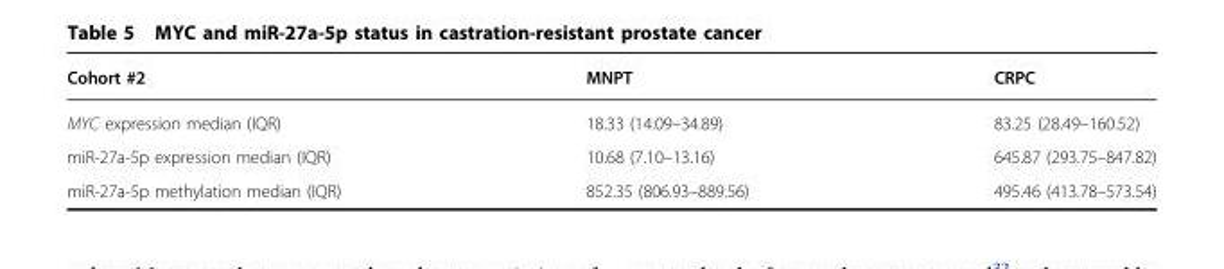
<table><thead><tr><td>Cohort #2</td><td>MNPT</td><td>CRPC</td></tr></thead><tbody><tr><td>MYC expression median (IQR)</td><td>18.33 (14.09–34.89)</td><td>83.25 (28.49–160.52)</td></tr><tr><td>miR-27a-5p expression median (IQR)</td><td>10.68 (7.10–13.16)</td><td>645.87 (293.75–847.82)</td></tr><tr><td>miR-27a-5p methylation median (IQR)</td><td>852.35 (806.93–889.56)</td><td>495.46 (413.78–573.54)</td></tr></tbody></table>